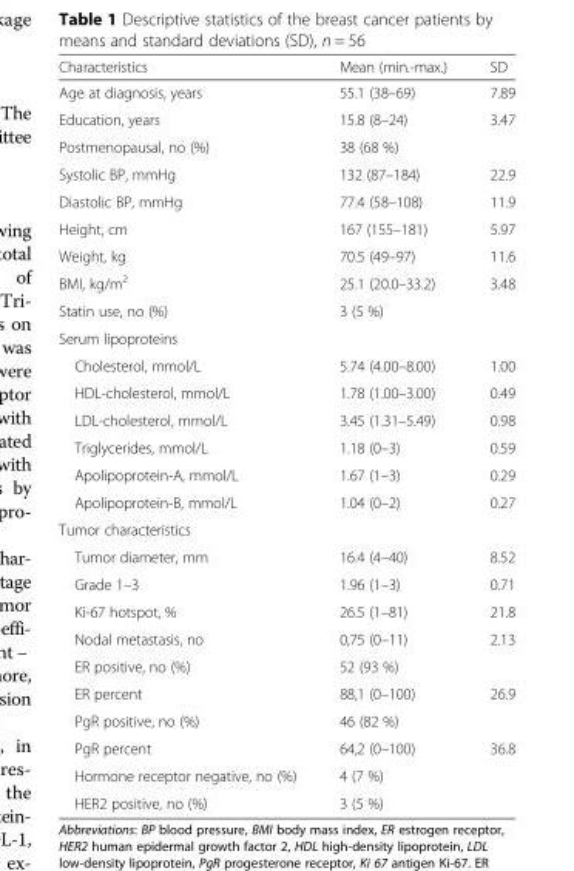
<table><thead><tr><td>Characteristics</td><td>Mean (min.-max.)</td><td>SD</td></tr></thead><tbody><tr><td>Age at diagnosis, years</td><td>55.1 (38–69)</td><td>7.89</td></tr><tr><td>Education, years</td><td>15.8 (8–24)</td><td>3.47</td></tr><tr><td>Postmenopausal, no (%)</td><td>38 (68 %)</td><td></td></tr><tr><td>Systolic BP, mmHg</td><td>132 (87–184)</td><td>22.9</td></tr><tr><td>Diastolic BP, mmHg</td><td>77.4 (58–108)</td><td>11.9</td></tr><tr><td>Height, cm</td><td>167 (155–181)</td><td>5.97</td></tr><tr><td>Weight, kg</td><td>70.5 (49–97)</td><td>11.6</td></tr><tr><td>BMI, kg/m<sup>2</sup></td><td>25.1 (20.0–33.2)</td><td>3.48</td></tr><tr><td>Statin use, no (%)</td><td>3 (5 %)</td><td></td></tr><tr><td colspan="3">Serum lipoproteins</td></tr><tr><td>Cholesterol, mmol/L</td><td>5.74 (4.00–8.00)</td><td>1.00</td></tr><tr><td>HDL-cholesterol, mmol/L</td><td>1.78 (1.00–3.00)</td><td>0.49</td></tr><tr><td>LDL-cholesterol, mmol/L</td><td>3.45 (1.31–5.49)</td><td>0.98</td></tr><tr><td>Triglycerides, mmol/L</td><td>1.18 (0–3)</td><td>0.59</td></tr><tr><td>Apolipoprotein-A, mmol/L</td><td>1.67 (1–3)</td><td>0.29</td></tr><tr><td>Apolipoprotein-B, mmol/L</td><td>1.04 (0–2)</td><td>0.27</td></tr><tr><td colspan="3">Tumor characteristics</td></tr><tr><td>Tumor diameter, mm</td><td>16.4 (4–40)</td><td>8.52</td></tr><tr><td>Grade 1–3</td><td>1.96 (1–3)</td><td>0.71</td></tr><tr><td>Ki-67 hotspot, %</td><td>26.5 (1–81)</td><td>21.8</td></tr><tr><td>Nodal metastasis, no</td><td>0,75 (0–11)</td><td>2.13</td></tr><tr><td>ER positive, no (%)</td><td>52 (93 %)</td><td></td></tr><tr><td>ER percent</td><td>88,1 (0–100)</td><td>26.9</td></tr><tr><td>PgR positive, no (%)</td><td>46 (82 %)</td><td></td></tr><tr><td>PgR percent</td><td>64,2 (0–100)</td><td>36.8</td></tr><tr><td>Hormone receptor negative, no (%)</td><td>4 (7 %)</td><td></td></tr><tr><td>HER2 positive, no (%)</td><td>3 (5 %)</td><td></td></tr></tbody></table>